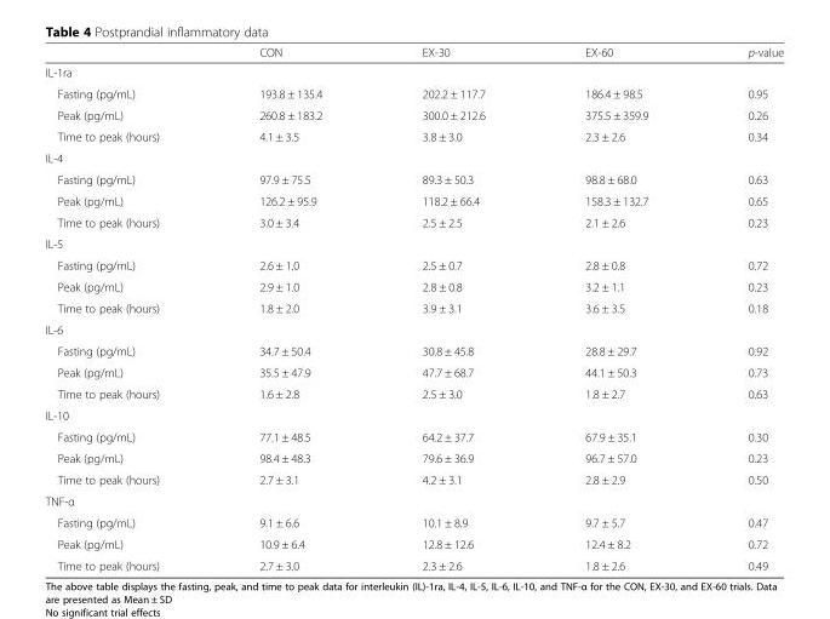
<table><thead><tr><td></td><td>CON</td><td>EX-30</td><td>EX-60</td><td>p-value</td></tr></thead><tbody><tr><td colspan="5">IL-1ra</td></tr><tr><td>Fasting (pg/mL)</td><td>193.8 ± 135.4</td><td>202.2 ± 117.7</td><td>186.4 ± 98.5</td><td>0.95</td></tr><tr><td>Peak (pg/mL)</td><td>260.8 ± 183.2</td><td>300.0 ± 212.6</td><td>375.5 ± 359.9</td><td>0.26</td></tr><tr><td>Time to peak (hours)</td><td>4.1 ± 3.5</td><td>3.8 ± 3.0</td><td>2.3 ± 2.6</td><td>0.34</td></tr><tr><td colspan="5">IL-4</td></tr><tr><td>Fasting (pg/mL)</td><td>97.9 ± 75.5</td><td>89.3 ± 50.3</td><td>98.8 ± 68.0</td><td>0.63</td></tr><tr><td>Peak (pg/mL)</td><td>126.2 ± 95.9</td><td>118.2 ± 66.4</td><td>158.3 ± 132.7</td><td>0.65</td></tr><tr><td>Time to peak (hours)</td><td>3.0 ± 3.4</td><td>2.5 ± 2.5</td><td>2.1 ± 2.6</td><td>0.23</td></tr><tr><td colspan="5">IL-5</td></tr><tr><td>Fasting (pg/mL)</td><td>2.6 ± 1.0</td><td>2.5 ± 0.7</td><td>2.8 ± 0.8</td><td>0.72</td></tr><tr><td>Peak (pg/mL)</td><td>2.9 ± 1.0</td><td>2.8 ± 0.8</td><td>3.2 ± 1.1</td><td>0.23</td></tr><tr><td>Time to peak (hours)</td><td>1.8 ± 2.0</td><td>3.9 ± 3.1</td><td>3.6 ± 3.5</td><td>0.18</td></tr><tr><td colspan="5">IL-6</td></tr><tr><td>Fasting (pg/mL)</td><td>34.7 ± 50.4</td><td>30.8 ± 45.8</td><td>28.8 ± 29.7</td><td>0.92</td></tr><tr><td>Peak (pg/mL)</td><td>35.5 ± 47.9</td><td>47.7 ± 68.7</td><td>44.1 ± 50.3</td><td>0.73</td></tr><tr><td>Time to peak (hours)</td><td>1.6 ± 2.8</td><td>2.5 ± 3.0</td><td>1.8 ± 2.7</td><td>0.63</td></tr><tr><td colspan="5">IL-10</td></tr><tr><td>Fasting (pg/mL)</td><td>77.1 ± 48.5</td><td>64.2 ± 37.7</td><td>67.9 ± 35.1</td><td>0.30</td></tr><tr><td>Peak (pg/mL)</td><td>98.4 ± 48.3</td><td>79.6 ± 36.9</td><td>96.7 ± 57.0</td><td>0.23</td></tr><tr><td>Time to peak (hours)</td><td>2.7 ± 3.1</td><td>4.2 ± 3.1</td><td>2.8 ± 2.9</td><td>0.50</td></tr><tr><td colspan="5">TNF-α</td></tr><tr><td>Fasting (pg/mL)</td><td>9.1 ± 6.6</td><td>10.1 ± 8.9</td><td>9.7 ± 5.7</td><td>0.47</td></tr><tr><td>Peak (pg/mL)</td><td>10.9 ± 6.4</td><td>12.8 ± 12.6</td><td>12.4 ± 8.2</td><td>0.72</td></tr><tr><td>Time to peak (hours)</td><td>2.7 ± 3.0</td><td>2.3 ± 2.6</td><td>1.8 ± 2.6</td><td>0.49</td></tr></tbody></table>